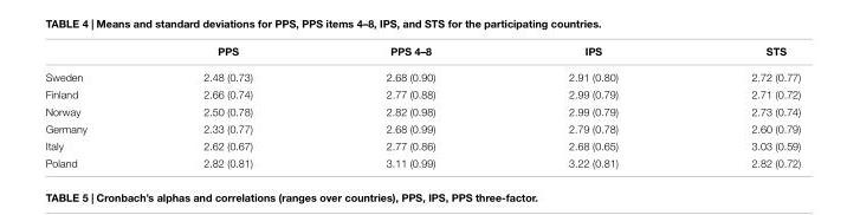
<table><thead><tr><td></td><td>PPS</td><td>PPS 4–8</td><td>IPS</td><td>STS</td></tr></thead><tbody><tr><td>Sweden</td><td>2.48 (0.73)</td><td>2.68 (0.90)</td><td>2.91 (0.80)</td><td>2.72 (0.77)</td></tr><tr><td>Finland</td><td>2.66 (0.74)</td><td>2.77 (0.88)</td><td>2.99 (0.79)</td><td>2.71 (0.72)</td></tr><tr><td>Norway</td><td>2.50 (0.78)</td><td>2.82 (0.98)</td><td>2.99 (0.79)</td><td>2.73 (0.74)</td></tr><tr><td>Germany</td><td>2.33 (0.77)</td><td>2.68 (0.99)</td><td>2.79 (0.78)</td><td>2.60 (0.79)</td></tr><tr><td>Italy</td><td>2.62 (0.67)</td><td>2.77 (0.86)</td><td>2.68 (0.65)</td><td>3.03 (0.59)</td></tr><tr><td>Poland</td><td>2.82 (0.81)</td><td>3.11 (0.99)</td><td>3.22 (0.81)</td><td>2.82 (0.72)</td></tr></tbody></table>